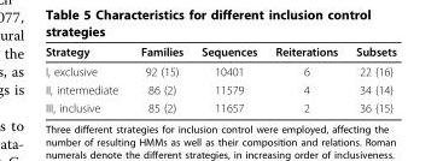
<table><thead><tr><td>Strategy</td><td>Families</td><td>Sequences</td><td>Reiterations</td><td>Subsets</td></tr></thead><tbody><tr><td>I, exclusive</td><td>92 (15)</td><td>10401</td><td>6</td><td>22 {16}</td></tr><tr><td>II, intermediate</td><td>86 (2)</td><td>11579</td><td>4</td><td>34 {14}</td></tr><tr><td>III, inclusive</td><td>85 (2)</td><td>11657</td><td>2</td><td>36 {15}</td></tr></tbody></table>